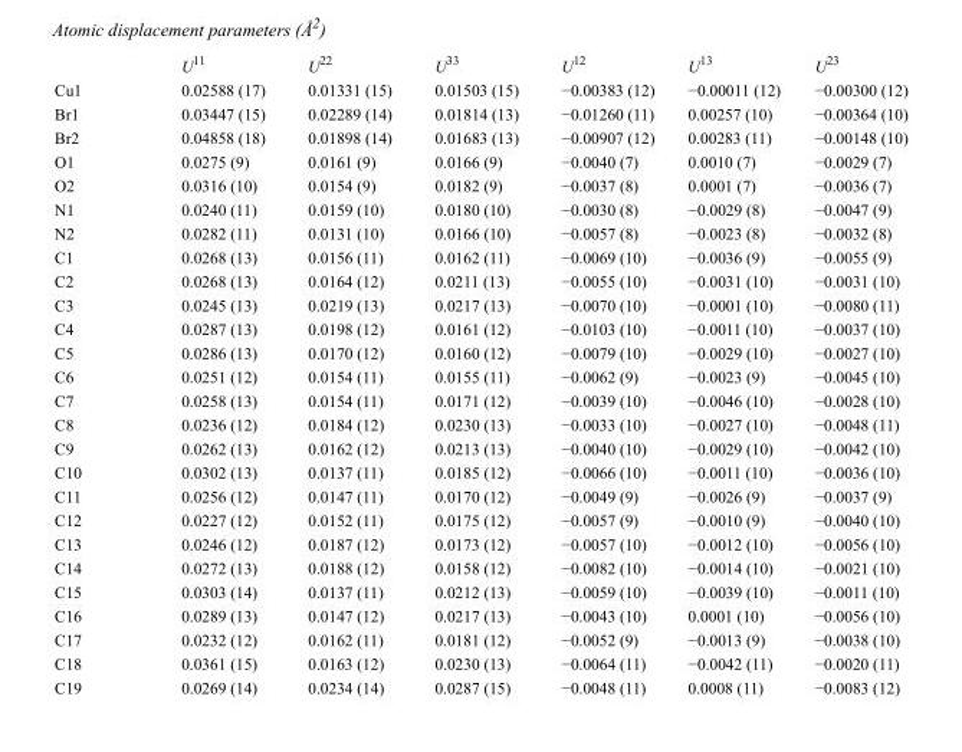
<table><thead><tr><td></td><td>U<sup>11</sup></td><td>U<sup>22</sup></td><td>U<sup>33</sup></td><td>U<sup>12</sup></td><td>U<sup>13</sup></td><td>U<sup>23</sup></td></tr></thead><tbody><tr><td>Cu1</td><td>0.02588 (17)</td><td>0.01331 (15)</td><td>0.01503 (15)</td><td>−0.00383 (12)</td><td>−0.00011 (12)</td><td>−0.00300 (12)</td></tr><tr><td>Br1</td><td>0.03447 (15)</td><td>0.02289 (14)</td><td>0.01814 (13)</td><td>−0.01260 (11)</td><td>0.00257 (10)</td><td>−0.00364 (10)</td></tr><tr><td>Br2</td><td>0.04858 (18)</td><td>0.01898 (14)</td><td>0.01683 (13)</td><td>−0.00907 (12)</td><td>0.00283 (11)</td><td>−0.00148 (10)</td></tr><tr><td>O1</td><td>0.0275 (9)</td><td>0.0161 (9)</td><td>0.0166 (9)</td><td>−0.0040 (7)</td><td>0.0010 (7)</td><td>−0.0029 (7)</td></tr><tr><td>O2</td><td>0.0316 (10)</td><td>0.0154 (9)</td><td>0.0182 (9)</td><td>−0.0037 (8)</td><td>0.0001 (7)</td><td>−0.0036 (7)</td></tr><tr><td>N1</td><td>0.0240 (11)</td><td>0.0159 (10)</td><td>0.0180 (10)</td><td>−0.0030 (8)</td><td>−0.0029 (8)</td><td>−0.0047 (9)</td></tr><tr><td>N2</td><td>0.0282 (11)</td><td>0.0131 (10)</td><td>0.0166 (10)</td><td>−0.0057 (8)</td><td>−0.0023 (8)</td><td>−0.0032 (8)</td></tr><tr><td>C1</td><td>0.0268 (13)</td><td>0.0156 (11)</td><td>0.0162 (11)</td><td>−0.0069 (10)</td><td>−0.0036 (9)</td><td>−0.0055 (9)</td></tr><tr><td>C2</td><td>0.0268 (13)</td><td>0.0164 (12)</td><td>0.0211 (13)</td><td>−0.0055 (10)</td><td>−0.0031 (10)</td><td>−0.0031 (10)</td></tr><tr><td>C3</td><td>0.0245 (13)</td><td>0.0219 (13)</td><td>0.0217 (13)</td><td>−0.0070 (10)</td><td>−0.0001 (10)</td><td>−0.0080 (11)</td></tr><tr><td>C4</td><td>0.0287 (13)</td><td>0.0198 (12)</td><td>0.0161 (12)</td><td>−0.0103 (10)</td><td>−0.0011 (10)</td><td>−0.0037 (10)</td></tr><tr><td>C5</td><td>0.0286 (13)</td><td>0.0170 (12)</td><td>0.0160 (12)</td><td>−0.0079 (10)</td><td>−0.0029 (10)</td><td>−0.0027 (10)</td></tr><tr><td>C6</td><td>0.0251 (12)</td><td>0.0154 (11)</td><td>0.0155 (11)</td><td>−0.0062 (9)</td><td>−0.0023 (9)</td><td>−0.0045 (10)</td></tr><tr><td>C7</td><td>0.0258 (13)</td><td>0.0154 (11)</td><td>0.0171 (12)</td><td>−0.0039 (10)</td><td>−0.0046 (10)</td><td>−0.0028 (10)</td></tr><tr><td>C8</td><td>0.0236 (12)</td><td>0.0184 (12)</td><td>0.0230 (13)</td><td>−0.0033 (10)</td><td>−0.0027 (10)</td><td>−0.0048 (11)</td></tr><tr><td>C9</td><td>0.0262 (13)</td><td>0.0162 (12)</td><td>0.0213 (13)</td><td>−0.0040 (10)</td><td>−0.0029 (10)</td><td>−0.0042 (10)</td></tr><tr><td>C10</td><td>0.0302 (13)</td><td>0.0137 (11)</td><td>0.0185 (12)</td><td>−0.0066 (10)</td><td>−0.0011 (10)</td><td>−0.0036 (10)</td></tr><tr><td>C11</td><td>0.0256 (12)</td><td>0.0147 (11)</td><td>0.0170 (12)</td><td>−0.0049 (9)</td><td>−0.0026 (9)</td><td>−0.0037 (9)</td></tr><tr><td>C12</td><td>0.0227 (12)</td><td>0.0152 (11)</td><td>0.0175 (12)</td><td>−0.0057 (9)</td><td>−0.0010 (9)</td><td>−0.0040 (10)</td></tr><tr><td>C13</td><td>0.0246 (12)</td><td>0.0187 (12)</td><td>0.0173 (12)</td><td>−0.0057 (10)</td><td>−0.0012 (10)</td><td>−0.0056 (10)</td></tr><tr><td>C14</td><td>0.0272 (13)</td><td>0.0188 (12)</td><td>0.0158 (12)</td><td>−0.0082 (10)</td><td>−0.0014 (10)</td><td>−0.0021 (10)</td></tr><tr><td>C15</td><td>0.0303 (14)</td><td>0.0137 (11)</td><td>0.0212 (13)</td><td>−0.0059 (10)</td><td>−0.0039 (10)</td><td>−0.0011 (10)</td></tr><tr><td>C16</td><td>0.0289 (13)</td><td>0.0147 (12)</td><td>0.0217 (13)</td><td>−0.0043 (10)</td><td>0.0001 (10)</td><td>−0.0056 (10)</td></tr><tr><td>C17</td><td>0.0232 (12)</td><td>0.0162 (11)</td><td>0.0181 (12)</td><td>−0.0052 (9)</td><td>−0.0013 (9)</td><td>−0.0038 (10)</td></tr><tr><td>C18</td><td>0.0361 (15)</td><td>0.0163 (12)</td><td>0.0230 (13)</td><td>−0.0064 (11)</td><td>−0.0042 (11)</td><td>−0.0020 (11)</td></tr><tr><td>C19</td><td>0.0269 (14)</td><td>0.0234 (14)</td><td>0.0287 (15)</td><td>−0.0048 (11)</td><td>0.0008 (11)</td><td>−0.0083 (12)</td></tr></tbody></table>